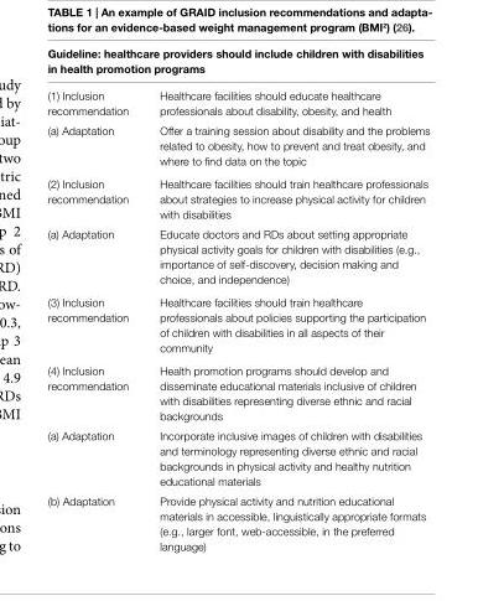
<table><thead><tr><td colspan="2">Guideline: healthcare providers should include children with disabilities in health promotion programs</td></tr><tr><td>(1) Inclusion recommendation</td><td>Healthcare facilities should educate healthcare professionals about disability, obesity, and health</td></tr></thead><tbody><tr><td>(a) Adaptation</td><td>Offer a training session about disability and the problems related to obesity, how to prevent and treat obesity, and where to find data on the topic</td></tr><tr><td>(2) Inclusion recommendation</td><td>Healthcare facilities should train healthcare professionals about strategies to increase physical activity for children with disabilities</td></tr><tr><td>(a) Adaptation</td><td>Educate doctors and RDs about setting appropriate physical activity goals for children with disabilities (e.g., importance of self-discovery, decision making and choice, and independence)</td></tr><tr><td>(3) Inclusion recommendation</td><td>Healthcare facilities should train healthcare professionals about policies supporting the participation of children with disabilities in all aspects of their community</td></tr><tr><td>(4) Inclusion recommendation</td><td>Health promotion programs should develop and disseminate educational materials inclusive of children with disabilities representing diverse ethnic and racial backgrounds</td></tr><tr><td>(a) Adaptation</td><td>Incorporate inclusive images of children with disabilities and terminology representing diverse ethnic and racial backgrounds in physical activity and healthy nutrition educational materials</td></tr><tr><td>(b) Adaptation</td><td>Provide physical activity and nutrition educational materials in accessible, linguistically appropriate formats (e.g., larger font, web-accessible, in the preferred language)</td></tr></tbody></table>